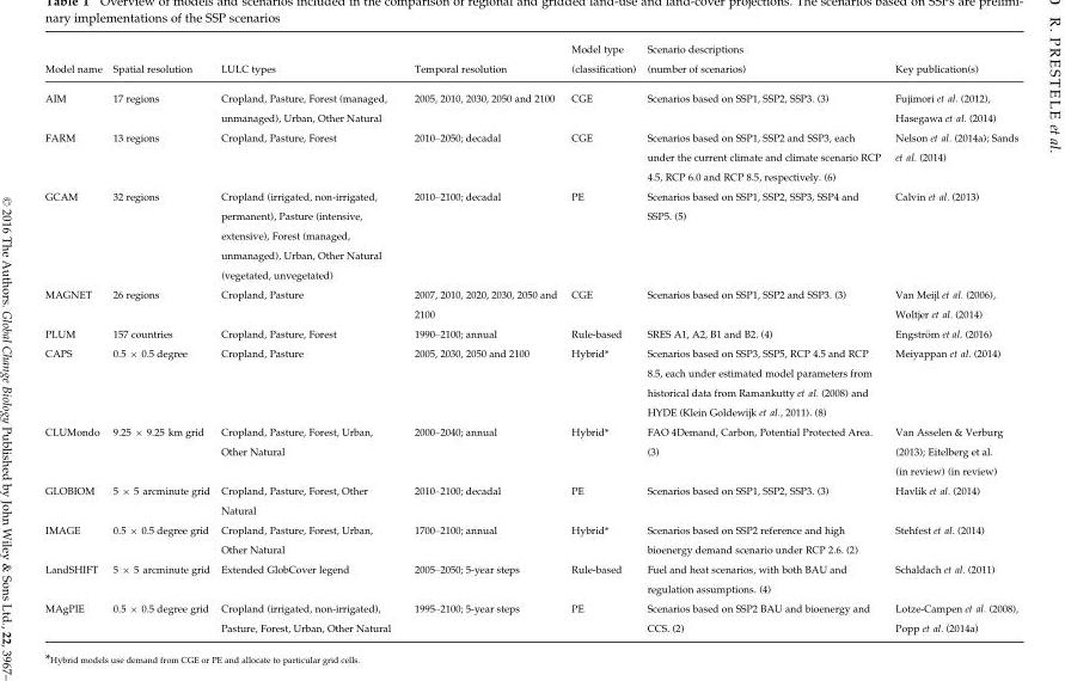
<table><thead><tr><td>Model name</td><td>Spatial resolution</td><td>LULC types</td><td>Temporal resolution</td><td>Model type (classification)</td><td>Scenario descriptions (number of scenarios)</td><td>Key publication(s)</td></tr></thead><tbody><tr><td>AIM</td><td>17 regions</td><td>Cropland, Pasture, Forest (managed, unmanaged), Urban, Other Natural</td><td>2005, 2010, 2030, 2050 and 2100</td><td>CGE</td><td>Scenarios based on SSP1, SSP2, SSP3. (3)</td><td>Fujimori et al. (2012), Hasegawa et al. (2014)</td></tr><tr><td>FARM</td><td>13 regions</td><td>Cropland, Pasture, Forest</td><td>2010–2050; decadal</td><td>CGE</td><td>Scenarios based on SSP1, SSP2 and SSP3, each under the current climate and climate scenario RCP 4.5, RCP 6.0 and RCP 8.5, respectively. (6)</td><td>Nelson et al. (2014a); Sands et al. (2014)</td></tr><tr><td>GCAM</td><td>32 regions</td><td>Cropland (irrigated, non-irrigated, permanent), Pasture (intensive, extensive), Forest (managed, unmanaged), Urban, Other Natural (vegetated, unvegetated)</td><td>2010–2100; decadal</td><td>PE</td><td>Scenarios based on SSP1, SSP2, SSP3, SSP4 and SSP5. (5)</td><td>Calvin et al. (2013)</td></tr><tr><td>MAGNET</td><td>26 regions</td><td>Cropland, Pasture</td><td>2007, 2010, 2020, 2030, 2050 and 2100</td><td>CGE</td><td>Scenarios based on SSP1, SSP2 and SSP3. (3)</td><td>Van Meijl et al. (2006), Woltjer et al. (2014)</td></tr><tr><td>PLUM</td><td>157 countries</td><td>Cropland, Pasture, Forest</td><td>1990–2100; annual</td><td>Rule-based</td><td>SRES A1, A2, B1 and B2. (4)</td><td>Engstr€om et al. (2016)</td></tr><tr><td>CAPS</td><td>0.5 × 0.5 degree</td><td>Cropland, Pasture</td><td>2005, 2030, 2050 and 2100</td><td>Hybrid*</td><td>Scenarios based on SSP3, SSP5, RCP 4.5 and RCP 8.5, each under estimated model parameters from historical data from Ramankutty et al. (2008) and HYDE (Klein Goldewijk et al., 2011). (8)</td><td>Meiyappan et al. (2014)</td></tr><tr><td>CLUMondo</td><td>9.25 × 9.25 km grid</td><td>Cropland, Pasture, Forest, Urban, Other Natural</td><td>2000–2040; annual</td><td>Hybrid*</td><td>FAO 4Demand, Carbon, Potential Protected Area. (3)</td><td>Van Asselen &amp; Verburg (2013); Eitelberg et al. (in review) (in review)</td></tr><tr><td>GLOBIOM</td><td>5 × 5 arcminute grid</td><td>Cropland, Pasture, Forest, Other Natural</td><td>2010–2100; decadal</td><td>PE</td><td>Scenarios based on SSP1, SSP2, SSP3. (3)</td><td>Havlik et al. (2014)</td></tr><tr><td>IMAGE</td><td>0.5 × 0.5 degree grid</td><td>Cropland, Pasture, Forest, Urban, Other Natural</td><td>1700–2100; annual</td><td>Hybrid*</td><td>Scenarios based on SSP2 reference and high bioenergy demand scenario under RCP 2.6. (2)</td><td>Stehfest et al. (2014)</td></tr><tr><td>LandSHIFT</td><td>5 × 5 arcminute grid</td><td>Extended GlobCover legend</td><td>2005–2050; 5-year steps</td><td>Rule-based</td><td>Fuel and heat scenarios, with both BAU and regulation assumptions. (4)</td><td>Schaldach et al. (2011)</td></tr><tr><td>MAgPIE</td><td>0.5 × 0.5 degree grid</td><td>Cropland (irrigated, non-irrigated), Pasture, Forest, Urban, Other Natural</td><td>1995–2100; 5-year steps</td><td>PE</td><td>Scenarios based on SSP2 BAU and bioenergy and CCS. (2)</td><td>Lotze-Campen et al. (2008), Popp et al. (2014a)</td></tr></tbody></table>